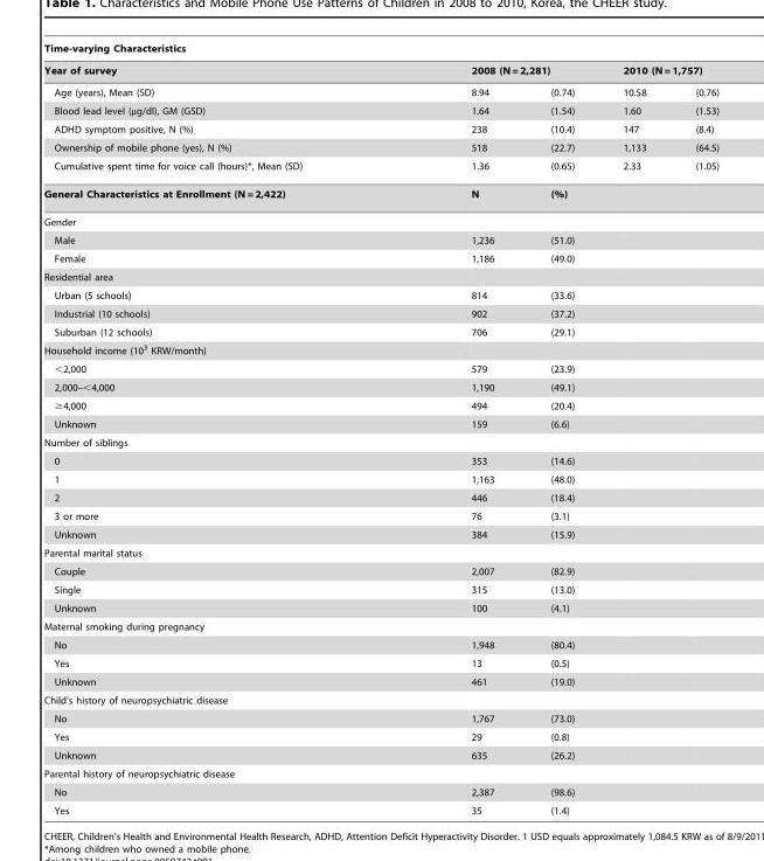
<table><thead><tr><td colspan="5">Time-varying Characteristics</td></tr><tr><td rowspan="2">Year of survey Age (years), Mean (SD)</td><td colspan="2">2008 (N = 2,281)</td><td colspan="2">2010 (N = 1,757)</td></tr><tr><td>8.94</td><td>(0.74)</td><td>10.58</td><td>(0.76)</td></tr></thead><tbody><tr><td>Blood lead level (µg/dl), GM (GSD)</td><td>1.64</td><td>(1.54)</td><td>1.60</td><td>(1.53)</td></tr><tr><td>ADHD symptom positive, N (%)</td><td>238</td><td>(10.4)</td><td>147</td><td>(8.4)</td></tr><tr><td>Ownership of mobile phone (yes), N (%)</td><td>518</td><td>(22.7)</td><td>1,133</td><td>(64.5)</td></tr><tr><td>Cumulative spent time for voice call (hours)*, Mean (SD)</td><td>1.36</td><td>(0.65)</td><td>2.33</td><td>(1.05)</td></tr><tr><td>General Characteristics at Enrollment (N = 2,422)</td><td>N</td><td>(%)</td><td></td><td></td></tr><tr><td colspan="5">Gender</td></tr><tr><td>Male</td><td>1,236</td><td>(51.0)</td><td></td><td></td></tr><tr><td>Female</td><td>1,186</td><td>(49.0)</td><td></td><td></td></tr><tr><td colspan="5">Residential area</td></tr><tr><td>Urban (5 schools)</td><td>814</td><td>(33.6)</td><td></td><td></td></tr><tr><td>Industrial (10 schools)</td><td>902</td><td>(37.2)</td><td></td><td></td></tr><tr><td>Suburban (12 schools)</td><td>706</td><td>(29.1)</td><td></td><td></td></tr><tr><td colspan="5">Household income (10<sup>3</sup> KRW/month)</td></tr><tr><td>&lt;2,000</td><td>579</td><td>(23.9)</td><td></td><td></td></tr><tr><td>2,000–&lt;4,000</td><td>1,190</td><td>(49.1)</td><td></td><td></td></tr><tr><td>≥4,000</td><td>494</td><td>(20.4)</td><td></td><td></td></tr><tr><td>Unknown</td><td>159</td><td>(6.6)</td><td></td><td></td></tr><tr><td colspan="5">Number of siblings</td></tr><tr><td>0</td><td>353</td><td>(14.6)</td><td></td><td></td></tr><tr><td>1</td><td>1,163</td><td>(48.0)</td><td></td><td></td></tr><tr><td>2</td><td>446</td><td>(18.4)</td><td></td><td></td></tr><tr><td>3 or more</td><td>76</td><td>(3.1)</td><td></td><td></td></tr><tr><td>Unknown</td><td>384</td><td>(15.9)</td><td></td><td></td></tr><tr><td colspan="5">Parental marital status</td></tr><tr><td>Couple</td><td>2,007</td><td>(82.9)</td><td></td><td></td></tr><tr><td>Single</td><td>315</td><td>(13.0)</td><td></td><td></td></tr><tr><td>Unknown</td><td>100</td><td>(4.1)</td><td></td><td></td></tr><tr><td colspan="5">Maternal smoking during pregnancy</td></tr><tr><td>No</td><td>1,948</td><td>(80.4)</td><td></td><td></td></tr><tr><td>Yes</td><td>13</td><td>(0.5)</td><td></td><td></td></tr><tr><td>Unknown</td><td>461</td><td>(19.0)</td><td></td><td></td></tr><tr><td colspan="5">Child’s history of neuropsychiatric disease</td></tr><tr><td>No</td><td>1,767</td><td>(73.0)</td><td></td><td></td></tr><tr><td>Yes</td><td>29</td><td>(0.8)</td><td></td><td></td></tr><tr><td>Unknown</td><td>635</td><td>(26.2)</td><td></td><td></td></tr><tr><td colspan="5">Parental history of neuropsychiatric disease</td></tr><tr><td>No</td><td>2,387</td><td>(98.6)</td><td></td><td></td></tr><tr><td>Yes</td><td>35</td><td>(1.4)</td><td></td><td></td></tr></tbody></table>